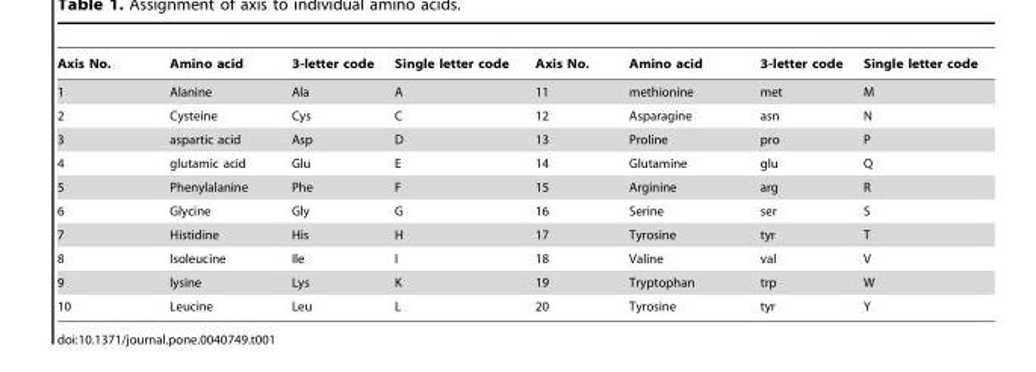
<table><thead><tr><td>Axis No.</td><td>Amino acid</td><td>3-letter code</td><td>Single letter code</td><td>Axis No.</td><td>Amino acid</td><td>3-letter code</td><td>Single letter code</td></tr></thead><tbody><tr><td>1</td><td>Alanine</td><td>Ala</td><td>A</td><td>11</td><td>methionine</td><td>met</td><td>M</td></tr><tr><td>2</td><td>Cysteine</td><td>Cys</td><td>C</td><td>12</td><td>Asparagine</td><td>asn</td><td>N</td></tr><tr><td>3</td><td>aspartic acid</td><td>Asp</td><td>D</td><td>13</td><td>Proline</td><td>pro</td><td>P</td></tr><tr><td>4</td><td>glutamic acid</td><td>Glu</td><td>E</td><td>14</td><td>Glutamine</td><td>glu</td><td>Q</td></tr><tr><td>5</td><td>Phenylalanine</td><td>Phe</td><td>F</td><td>15</td><td>Arginine</td><td>arg</td><td>R</td></tr><tr><td>6</td><td>Glycine</td><td>Gly</td><td>G</td><td>16</td><td>Serine</td><td>ser</td><td>S</td></tr><tr><td>7</td><td>Histidine</td><td>His</td><td>H</td><td>17</td><td>Tyrosine</td><td>tyr</td><td>T</td></tr><tr><td>8</td><td>Isoleucine</td><td>Ile</td><td>I</td><td>18</td><td>Valine</td><td>val</td><td>V</td></tr><tr><td>9</td><td>lysine</td><td>Lys</td><td>K</td><td>19</td><td>Tryptophan</td><td>trp</td><td>W</td></tr><tr><td>10</td><td>Leucine</td><td>Leu</td><td>L</td><td>20</td><td>Tyrosine</td><td>tyr</td><td>Y</td></tr></tbody></table>